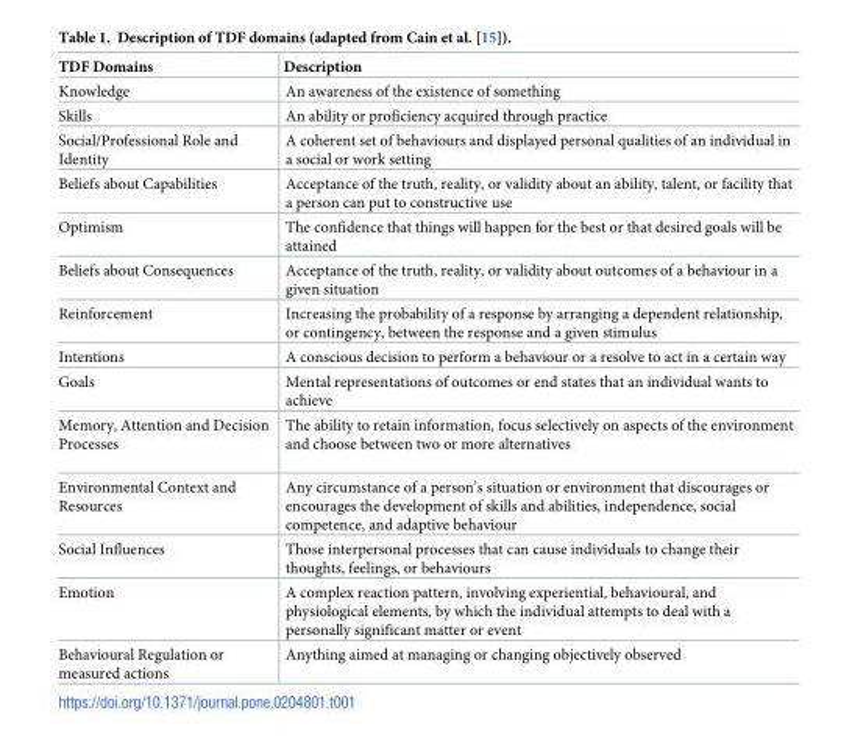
<table><thead><tr><td>TDF Domains</td><td>Description</td></tr></thead><tbody><tr><td>Knowledge</td><td>An awareness of the existence of something</td></tr><tr><td>Skills</td><td>An ability or proficiency acquired through practice</td></tr><tr><td>Social/Professional Role and Identity</td><td>A coherent set of behaviours and displayed personal qualities of an individual in a social or work setting</td></tr><tr><td>Beliefs about Capabilities</td><td>Acceptance of the truth, reality, or validity about an ability, talent, or facility that a person can put to constructive use</td></tr><tr><td>Optimism</td><td>The confidence that things will happen for the best or that desired goals will be attained</td></tr><tr><td>Beliefs about Consequences</td><td>Acceptance of the truth, reality, or validity about outcomes of a behaviour in a given situation</td></tr><tr><td>Reinforcement</td><td>Increasing the probability of a response by arranging a dependent relationship, or contingency, between the response and a given stimulus</td></tr><tr><td>Intentions</td><td>A conscious decision to perform a behaviour or a resolve to act in a certain way</td></tr><tr><td>Goals</td><td>Mental representations of outcomes or end states that an individual wants to achieve</td></tr><tr><td>Memory, Attention and Decision Processes</td><td>The ability to retain information, focus selectively on aspects of the environment and choose between two or more alternatives</td></tr><tr><td>Environmental Context and Resources</td><td>Any circumstance of a person’s situation or environment that discourages or encourages the development of skills and abilities, independence, social competence, and adaptive behaviour</td></tr><tr><td>Social Influences</td><td>Those interpersonal processes that can cause individuals to change their thoughts, feelings, or behaviours</td></tr><tr><td>Emotion</td><td>A complex reaction pattern, involving experiential, behavioural, and physiological elements, by which the individual attempts to deal with a personally significant matter or event</td></tr><tr><td>Behavioural Regulation or measured actions</td><td>Anything aimed at managing or changing objectively observed</td></tr></tbody></table>